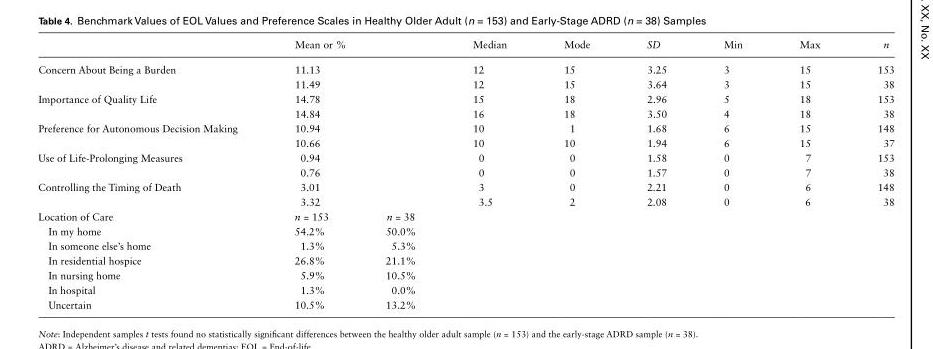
<table><thead><tr><td></td><td>Mean or %</td><td></td><td>Median</td><td>Mode</td><td>SD</td><td>Min</td><td>Max</td><td>n</td></tr></thead><tbody><tr><td rowspan="2">Concern About Being a Burden</td><td>11.13</td><td></td><td>12</td><td>15</td><td>3.25</td><td>3</td><td>15</td><td>153</td></tr><tr><td>11.49</td><td></td><td>12</td><td>15</td><td>3.64</td><td>3</td><td>15</td><td>38</td></tr><tr><td rowspan="2">Importance of Quality Life</td><td>14.78</td><td></td><td>15</td><td>18</td><td>2.96</td><td>5</td><td>18</td><td>153</td></tr><tr><td>14.84</td><td></td><td>16</td><td>18</td><td>3.50</td><td>4</td><td>18</td><td>38</td></tr><tr><td rowspan="2">Preference for Autonomous Decision Making</td><td>10.94</td><td></td><td>10</td><td>1</td><td>1.68</td><td>6</td><td>15</td><td>148</td></tr><tr><td>10.66</td><td></td><td>10</td><td>10</td><td>1.94</td><td>6</td><td>15</td><td>37</td></tr><tr><td rowspan="2">Use of Life-Prolonging Measures</td><td>0.94</td><td></td><td>0</td><td>0</td><td>1.58</td><td>0</td><td>7</td><td>153</td></tr><tr><td>0.76</td><td></td><td>0</td><td>0</td><td>1.57</td><td>0</td><td>7</td><td>38</td></tr><tr><td rowspan="2">Controlling the Timing of Death</td><td>3.01</td><td></td><td>3</td><td>0</td><td>2.21</td><td>0</td><td>6</td><td>148</td></tr><tr><td>3.32</td><td></td><td>3.5</td><td>2</td><td>2.08</td><td>0</td><td>6</td><td>38</td></tr><tr><td>Location of Care</td><td>n = 153</td><td>n = 38</td><td></td><td></td><td></td><td></td><td></td><td></td></tr><tr><td>In my home</td><td>54.2%</td><td>50.0%</td><td></td><td></td><td></td><td></td><td></td><td></td></tr><tr><td>In someone else’s home</td><td>1.3%</td><td>5.3%</td><td></td><td></td><td></td><td></td><td></td><td></td></tr><tr><td>In residential hospice</td><td>26.8%</td><td>21.1%</td><td></td><td></td><td></td><td></td><td></td><td></td></tr><tr><td>In nursing home</td><td>5.9%</td><td>10.5%</td><td></td><td></td><td></td><td></td><td></td><td></td></tr><tr><td>In hospital</td><td>1.3%</td><td>0.0%</td><td></td><td></td><td></td><td></td><td></td><td></td></tr><tr><td>Uncertain</td><td>10.5%</td><td>13.2%</td><td></td><td></td><td></td><td></td><td></td><td></td></tr></tbody></table>